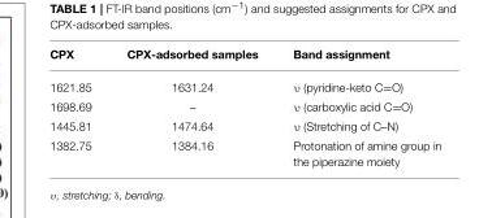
<table><thead><tr><td>CPX</td><td>CPX-adsorbed samples</td><td>Band assignment</td></tr></thead><tbody><tr><td>1621.85</td><td>1631.24</td><td>υ (pyridine-keto C=O)</td></tr><tr><td>1698.69</td><td>–</td><td>υ (carboxylic acid C=O)</td></tr><tr><td>1445.81</td><td>1474.64</td><td>υ (Stretching of C–N)</td></tr><tr><td>1382.75</td><td>1384.16</td><td>Protonation of amine group in the piperazine moiety</td></tr></tbody></table>